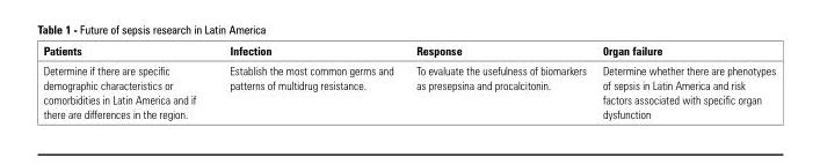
<table><thead><tr><td>Patients</td><td>Infection</td><td>Response</td><td>0rgan failure</td></tr></thead><tbody><tr><td>Determine if there are specific demographic characteristics or comorbidities in Latin America and if there are differences in the region.</td><td>Establish the most common germs and patterns of multidrug resistance.</td><td>To evaluate the usefulness of biomarkers as presepsina and procalcitonin.</td><td>Determine whether there are phenotypes of sepsis in Latin America and risk factors associated with specific organ dysfunction</td></tr></tbody></table>